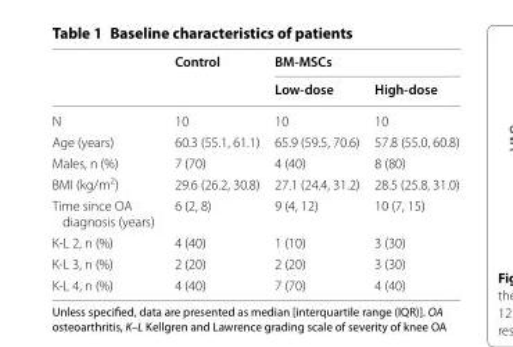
<table><thead><tr><td rowspan="2"></td><td rowspan="2">Control</td><td colspan="2">BM-MSCs</td></tr><tr><td>Low-dose</td><td>High-dose</td></tr></thead><tbody><tr><td>N</td><td>10</td><td>10</td><td>10</td></tr><tr><td>Age (years)</td><td>60.3 (55.1, 61.1)</td><td>65.9 (59.5, 70.6)</td><td>57.8 (55.0, 60.8)</td></tr><tr><td>Males, n (%)</td><td>7 (70)</td><td>4 (40)</td><td>8 (80)</td></tr><tr><td>BMI (kg/m<sup>2</sup>)</td><td>29.6 (26.2, 30.8)</td><td>27.1 (24.4, 31.2)</td><td>28.5 (25.8, 31.0)</td></tr><tr><td>Time since OA diagnosis (years)</td><td>6 (2, 8)</td><td>9 (4, 12)</td><td>10 (7, 15)</td></tr><tr><td>K‑L 2, n (%)</td><td>4 (40)</td><td>1 (10)</td><td>3 (30)</td></tr><tr><td>K‑L 3, n (%)</td><td>2 (20)</td><td>2 (20)</td><td>3 (30)</td></tr><tr><td>K‑L 4, n (%)</td><td>4 (40)</td><td>7 (70)</td><td>4 (40)</td></tr></tbody></table>